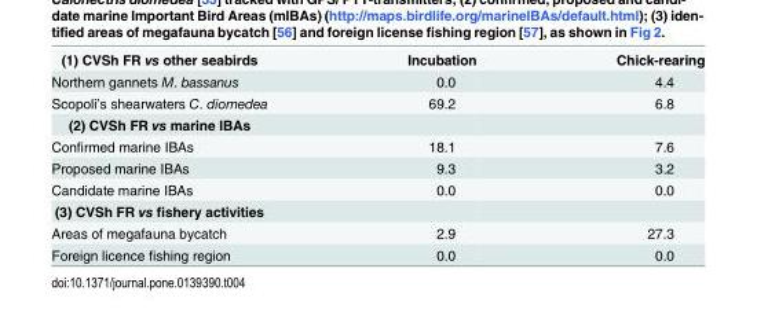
<table><tbody><tr><td>(1) CVSh FR vs other seabirds</td><td>Incubation</td><td>Chick-rearing</td></tr><tr><td>Northern gannets M. bassanus</td><td>0.0</td><td>4.4</td></tr><tr><td>Scopoli’s shearwaters C. diomedea</td><td>69.2</td><td>6.8</td></tr><tr><td colspan="3">(2) CVSh FR vs marine IBAs</td></tr><tr><td>Confirmed marine IBAs</td><td>18.1</td><td>7.6</td></tr><tr><td>Proposed marine IBAs</td><td>9.3</td><td>3.2</td></tr><tr><td>Candidate marine IBAs</td><td>0.0</td><td>0.0</td></tr><tr><td colspan="3">(3) CVSh FR vs fishery activities</td></tr><tr><td>Areas of megafauna bycatch</td><td>2.9</td><td>27.3</td></tr><tr><td>Foreign licence fishing region</td><td>0.0</td><td>0.0</td></tr></tbody></table>